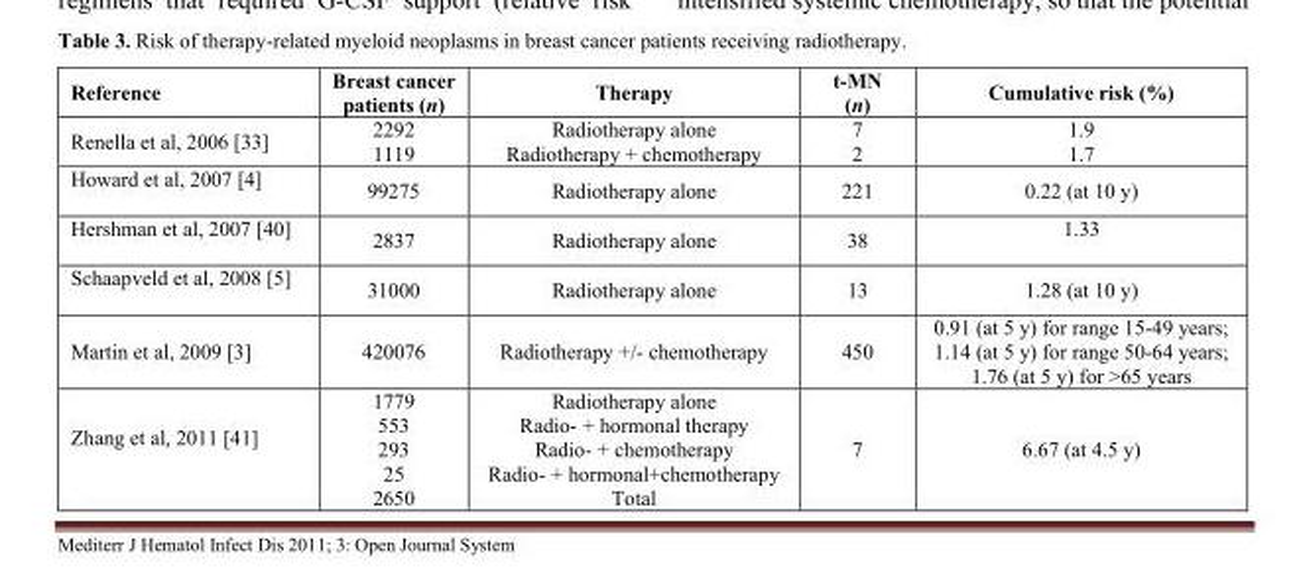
<table><thead><tr><td>Reference</td><td>Breast cancer patients (n)</td><td>Therapy</td><td>t-MN (n)</td><td>Cumulative risk (%)</td></tr></thead><tbody><tr><td rowspan="2">Renella et al, 2006 [33]</td><td>2292</td><td>Radiotherapy alone</td><td>7</td><td>1.9</td></tr><tr><td>1119</td><td>Radiotherapy + chemotherapy</td><td>2</td><td>1.7</td></tr><tr><td>Howard et al, 2007 [4]</td><td>99275</td><td>Radiotherapy alone</td><td>221</td><td>0.22 (at 10 y)</td></tr><tr><td>Hershman et al, 2007 [40]</td><td>2837</td><td>Radiotherapy alone</td><td>38</td><td>1.33</td></tr><tr><td>Schaapveld et al, 2008 [5]</td><td>31000</td><td>Radiotherapy alone</td><td>13</td><td>1.28 (at 10 y)</td></tr><tr><td>Martin et al, 2009 [3]</td><td>420076</td><td>Radiotherapy +/- chemotherapy</td><td>450</td><td>0.91 (at 5 y) for range 15-49 years; 1.14 (at 5 y) for range 50-64 years; 1.76 (at 5 y) for &gt;65 years</td></tr><tr><td rowspan="5">Zhang et al, 2011 [41]</td><td>1779</td><td>Radiotherapy alone</td><td rowspan="5">7</td><td rowspan="5">6.67 (at 4.5 y)</td></tr><tr><td>553</td><td>Radio- + hormonal therapy</td></tr><tr><td>293</td><td>Radio- + chemotherapy</td></tr><tr><td>25</td><td>Radio- + hormonal+chemotherapy</td></tr><tr><td>2650</td><td>Total</td></tr></tbody></table>